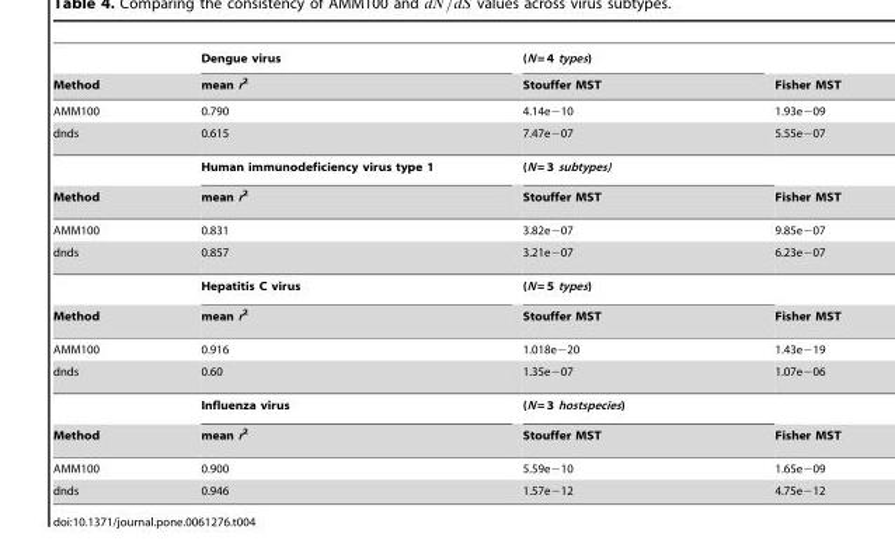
<table><thead><tr><td rowspan="2">Method</td><td rowspan="2">Dengue virus mean r2</td><td rowspan="2">(N = 4 types) Stouffer MST</td><td rowspan="2">Fisher MST</td></tr><tr></tr></thead><tbody><tr><td>AMM100</td><td>0.790</td><td>4.14e−10</td><td>1.93e−09</td></tr><tr><td rowspan="2">dnds</td><td>0.615</td><td>7.47e−07</td><td>5.55e−07</td></tr><tr><td>Human immunodeficiency virus type 1</td><td>(N = 3 subtypes)</td><td></td></tr><tr><td>Method</td><td>mean r2</td><td>Stouffer MST</td><td>Fisher MST</td></tr><tr><td>AMM100</td><td>0.831</td><td>3.82e−07</td><td>9.85e−07</td></tr><tr><td rowspan="2">dnds</td><td>0.857</td><td>3.21e−07</td><td>6.23e−07</td></tr><tr><td>Hepatitis C virus</td><td>(N = 5 types)</td><td></td></tr><tr><td>Method</td><td>mean r2</td><td>Stouffer MST</td><td>Fisher MST</td></tr><tr><td>AMM100</td><td>0.916</td><td>1.018e−20</td><td>1.43e−19</td></tr><tr><td rowspan="2">dnds</td><td>0.60</td><td>1.35e−07</td><td>1.07e−06</td></tr><tr><td>Influenza virus</td><td>(N = 3 hostspecies)</td><td></td></tr><tr><td>Method</td><td>mean r2</td><td>Stouffer MST</td><td>Fisher MST</td></tr><tr><td>AMM100</td><td>0.900</td><td>5.59e−10</td><td>1.65e−09</td></tr><tr><td>dnds</td><td>0.946</td><td>1.57e−12</td><td>4.75e−12</td></tr></tbody></table>